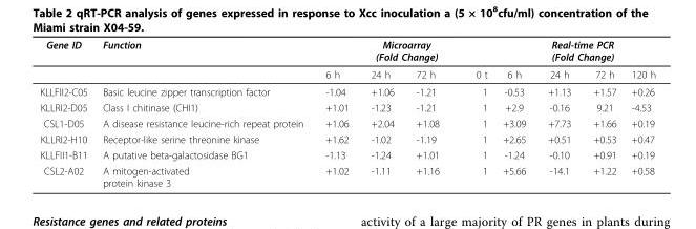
<table><thead><tr><td rowspan="2">Gene ID</td><td rowspan="2">Function</td><td colspan="4">Microarray (Fold Change)</td><td colspan="4">Real-time PCR (Fold Change)</td></tr><tr><td>6 h</td><td>24 h</td><td>72 h</td><td>0 t</td><td>6 h</td><td>24 h</td><td>72 h</td><td>120 h</td></tr></thead><tbody><tr><td>KLLFII2-C05</td><td>Basic leucine zipper transcription factor</td><td>-1.04</td><td>+1.06</td><td>-1.21</td><td>1</td><td>-0.53</td><td>+1.13</td><td>+1.57</td><td>+0.26</td></tr><tr><td>KLLRI2-D05</td><td>Class I chitinase (CHI1)</td><td>+1.01</td><td>-1.23</td><td>-1.21</td><td>1</td><td>+2.9</td><td>-0.16</td><td>9.21</td><td>-4.53</td></tr><tr><td>CSL1-D05</td><td>A disease resistance leucine-rich repeat protein</td><td>+1.06</td><td>+2.04</td><td>+1.08</td><td>1</td><td>+3.09</td><td>+7.73</td><td>+1.66</td><td>+0.19</td></tr><tr><td>KLLRI2-H10</td><td>Receptor-like serine threonine kinase</td><td>+1.62</td><td>-1.02</td><td>-1.19</td><td>1</td><td>+2.65</td><td>+0.51</td><td>+0.53</td><td>+0.47</td></tr><tr><td>KLLFII1-B11</td><td>A putative beta-galactosidase BG1</td><td>-1.13</td><td>-1.24</td><td>+1.01</td><td>1</td><td>-1.24</td><td>-0.10</td><td>+0.91</td><td>+0.19</td></tr><tr><td>CSL2-A02</td><td>A mitogen-activated protein kinase 3</td><td>+1.02</td><td>-1.11</td><td>+1.16</td><td>1</td><td>+5.66</td><td>-14.1</td><td>+1.22</td><td>+0.58</td></tr></tbody></table>